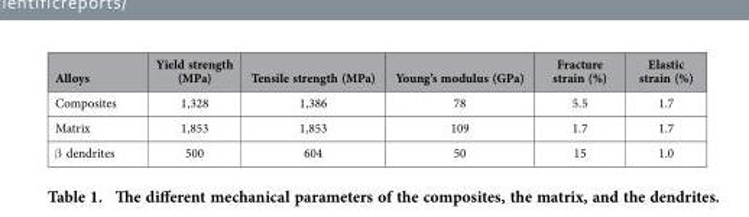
<table><thead><tr><td>Alloys</td><td>Yield strength (MPa)</td><td>Tensile strength (MPa)</td><td>Young’s modulus (GPa)</td><td>Fracture strain (%)</td><td>Elastic strain (%)</td></tr></thead><tbody><tr><td>Composites</td><td>1,328</td><td>1,386</td><td>78</td><td>5.5</td><td>1.7</td></tr><tr><td>Matrix</td><td>1,853</td><td>1,853</td><td>109</td><td>1.7</td><td>1.7</td></tr><tr><td>β dendrites</td><td>500</td><td>604</td><td>50</td><td>15</td><td>1.0</td></tr></tbody></table>